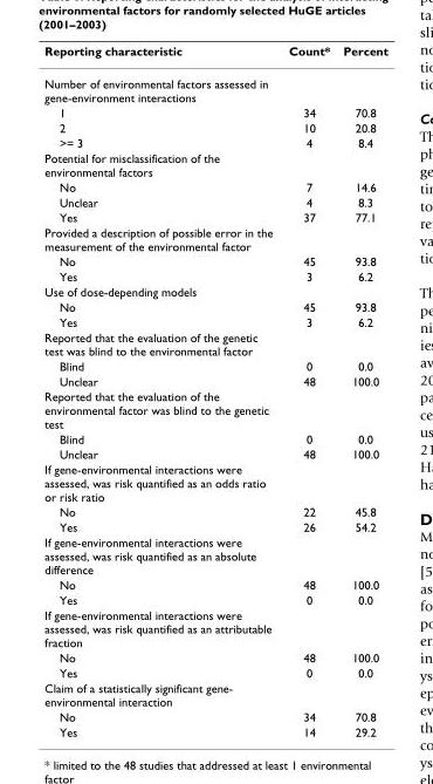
<table><thead><tr><td>Reporting characteristic</td><td>Count*</td><td>Percent</td></tr></thead><tbody><tr><td colspan="3">Number of environmental factors assessed in gene-environment interactions</td></tr><tr><td>1</td><td>34</td><td>70.8</td></tr><tr><td>2</td><td>10</td><td>20.8</td></tr><tr><td>&gt;= 3</td><td>4</td><td>8.4</td></tr><tr><td colspan="3">Potential for misclassification of the environmental factors</td></tr><tr><td>No</td><td>7</td><td>14.6</td></tr><tr><td>Unclear</td><td>4</td><td>8.3</td></tr><tr><td>Yes</td><td>37</td><td>77.1</td></tr><tr><td colspan="3">Provided a description of possible error in the measurement of the environmental factor</td></tr><tr><td>No</td><td>45</td><td>93.8</td></tr><tr><td>Yes</td><td>3</td><td>6.2</td></tr><tr><td colspan="3">Use of dose-depending models</td></tr><tr><td>No</td><td>45</td><td>93.8</td></tr><tr><td>Yes</td><td>3</td><td>6.2</td></tr><tr><td colspan="3">Reported that the evaluation of the genetic test was blind to the environmental factor</td></tr><tr><td>Blind</td><td>0</td><td>0.0</td></tr><tr><td>Unclear</td><td>48</td><td>100.0</td></tr><tr><td colspan="3">Reported that the evaluation of the environmental factor was blind to the genetic test</td></tr><tr><td>Blind</td><td>0</td><td>0.0</td></tr><tr><td>Unclear</td><td>48</td><td>100.0</td></tr><tr><td colspan="3">If gene-environmental interactions were assessed, was risk quantified as an odds ratio or risk ratio</td></tr><tr><td>No</td><td>22</td><td>45.8</td></tr><tr><td>Yes</td><td>26</td><td>54.2</td></tr><tr><td colspan="3">If gene-environmental interactions were assessed, was risk quantified as an absolute difference</td></tr><tr><td>No</td><td>48</td><td>100.0</td></tr><tr><td>Yes</td><td>0</td><td>0.0</td></tr><tr><td colspan="3">If gene-environmental interactions were assessed, was risk quantified as an attributable fraction</td></tr><tr><td>No</td><td>48</td><td>100.0</td></tr><tr><td>Yes</td><td>0</td><td>0.0</td></tr><tr><td colspan="3">Claim of a statistically significant gene- environmental interaction</td></tr><tr><td>No</td><td>34</td><td>70.8</td></tr><tr><td>Yes</td><td>14</td><td>29.2</td></tr></tbody></table>